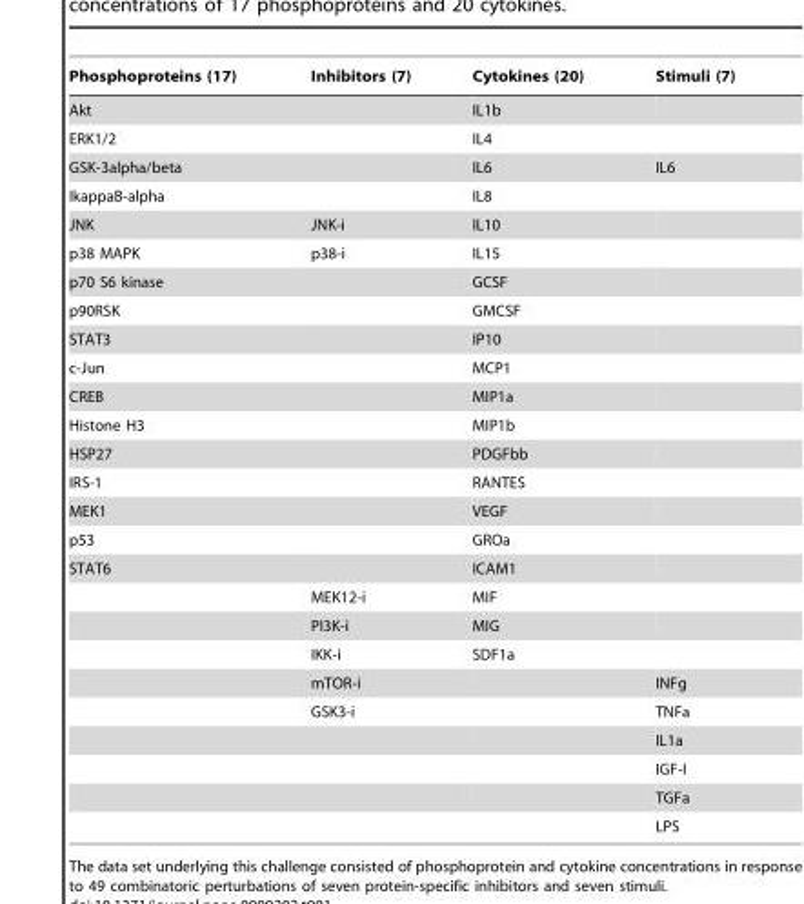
<table><thead><tr><td>Phosphoproteins (17)</td><td>Inhibitors (7)</td><td>Cytokines (20)</td><td>Stimuli (7)</td></tr></thead><tbody><tr><td>Akt</td><td></td><td>IL1b</td><td></td></tr><tr><td>ERK1/2</td><td></td><td>IL4</td><td></td></tr><tr><td>GSK-3alpha/beta</td><td></td><td>IL6</td><td>IL6</td></tr><tr><td>IkappaB-alpha</td><td></td><td>IL8</td><td></td></tr><tr><td>JNK</td><td>JNK-i</td><td>IL10</td><td></td></tr><tr><td>p38 MAPK</td><td>p38-i</td><td>IL15</td><td></td></tr><tr><td>p70 S6 kinase</td><td></td><td>GCSF</td><td></td></tr><tr><td>p90RSK</td><td></td><td>GMCSF</td><td></td></tr><tr><td>STAT3</td><td></td><td>IP10</td><td></td></tr><tr><td>c-Jun</td><td></td><td>MCP1</td><td></td></tr><tr><td>CREB</td><td></td><td>MIP1a</td><td></td></tr><tr><td>Histone H3</td><td></td><td>MIP1b</td><td></td></tr><tr><td>HSP27</td><td></td><td>PDGFbb</td><td></td></tr><tr><td>IRS-1</td><td></td><td>RANTES</td><td></td></tr><tr><td>MEK1</td><td></td><td>VEGF</td><td></td></tr><tr><td>p53</td><td></td><td>GROa</td><td></td></tr><tr><td rowspan="10">STAT6</td><td></td><td>ICAM1</td><td></td></tr><tr><td>MEK12-i</td><td>MIF</td><td></td></tr><tr><td>PI3K-i</td><td>MIG</td><td></td></tr><tr><td>IKK-i</td><td>SDF1a</td><td></td></tr><tr><td>mTOR-i</td><td></td><td>INFg</td></tr><tr><td>GSK3-i</td><td></td><td>TNFa</td></tr><tr><td></td><td></td><td>IL1a</td></tr><tr><td></td><td></td><td>IGF-I</td></tr><tr><td></td><td></td><td>TGFa</td></tr><tr><td></td><td></td><td>LPS</td></tr></tbody></table>